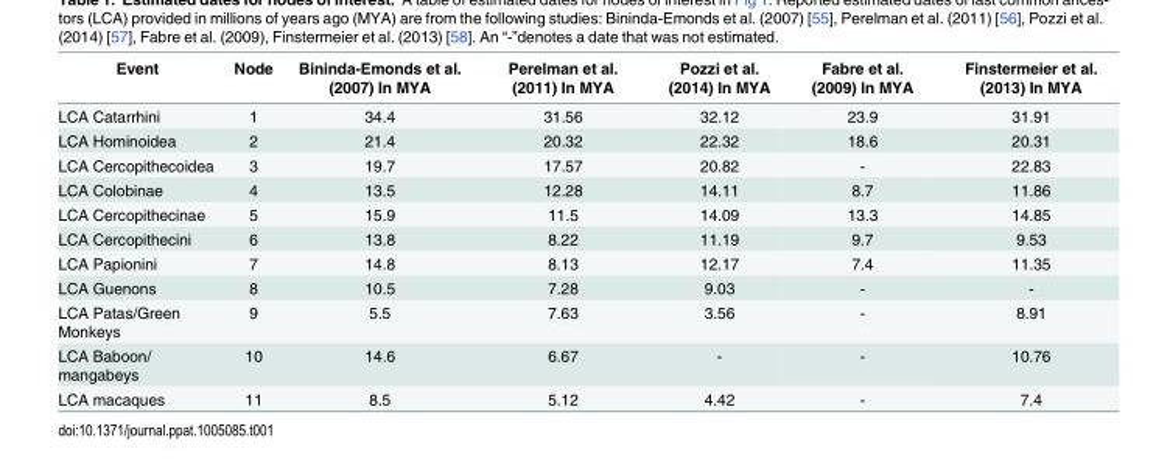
<table><thead><tr><td>Event</td><td>Node</td><td>Bininda-Emonds et al. (2007) In MYA</td><td>Perelman et al. (2011) In MYA</td><td>Pozzi et al. (2014) In MYA</td><td>Fabre et al. (2009) In MYA</td><td>Finstermeier et al. (2013) In MYA</td></tr></thead><tbody><tr><td>LCA Catarrhini</td><td>1</td><td>34.4</td><td>31.56</td><td>32.12</td><td>23.9</td><td>31.91</td></tr><tr><td>LCA Hominoidea</td><td>2</td><td>21.4</td><td>20.32</td><td>22.32</td><td>18.6</td><td>20.31</td></tr><tr><td>LCA Cercopithecoidea</td><td>3</td><td>19.7</td><td>17.57</td><td>20.82</td><td>-</td><td>22.83</td></tr><tr><td>LCA Colobinae</td><td>4</td><td>13.5</td><td>12.28</td><td>14.11</td><td>8.7</td><td>11.86</td></tr><tr><td>LCA Cercopithecinae</td><td>5</td><td>15.9</td><td>11.5</td><td>14.09</td><td>13.3</td><td>14.85</td></tr><tr><td>LCA Cercopithecini</td><td>6</td><td>13.8</td><td>8.22</td><td>11.19</td><td>9.7</td><td>9.53</td></tr><tr><td>LCA Papionini</td><td>7</td><td>14.8</td><td>8.13</td><td>12.17</td><td>7.4</td><td>11.35</td></tr><tr><td>LCA Guenons</td><td>8</td><td>10.5</td><td>7.28</td><td>9.03</td><td>-</td><td>-</td></tr><tr><td>LCA Patas/Green Monkeys</td><td>9</td><td>5.5</td><td>7.63</td><td>3.56</td><td>-</td><td>8.91</td></tr><tr><td>LCA Baboon/ mangabeys</td><td>10</td><td>14.6</td><td>6.67</td><td>-</td><td>-</td><td>10.76</td></tr><tr><td>LCA macaques</td><td>11</td><td>8.5</td><td>5.12</td><td>4.42</td><td>-</td><td>7.4</td></tr></tbody></table>